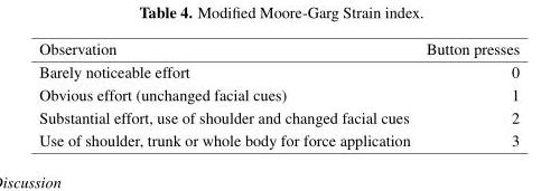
<table><thead><tr><td>Observation</td><td>Button presses</td></tr></thead><tbody><tr><td>Barely noticeable effort</td><td>0</td></tr><tr><td>Obvious effort (unchanged facial cues)</td><td>1</td></tr><tr><td>Substantial effort, use of shoulder and changed facial cues</td><td>2</td></tr><tr><td>Use of shoulder, trunk or whole body for force application</td><td>3</td></tr></tbody></table>